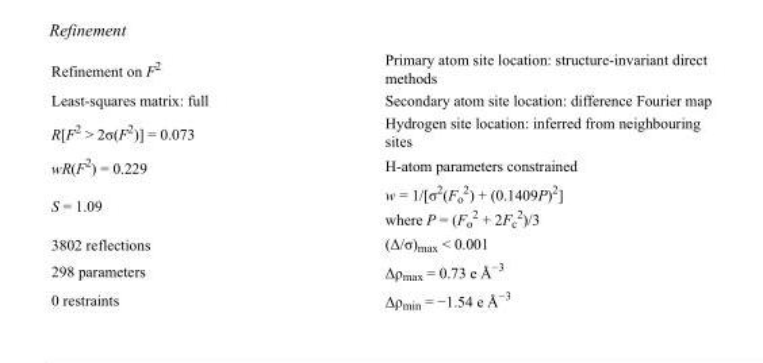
<table><tbody><tr><td>Refinement on F<sup>2</sup></td><td>Primary atom site location: structure-invariant direct methods</td></tr><tr><td>Least-squares matrix: full</td><td>Secondary atom site location: difference Fourier map</td></tr><tr><td>R[F<sup>2</sup> &gt; 2σ(F<sup>2</sup>)] = 0.073</td><td>Hydrogen site location: inferred from neighbouring sites</td></tr><tr><td>wR(F<sup>2</sup>) = 0.229</td><td>H-atom parameters constrained</td></tr><tr><td>S = 1.09</td><td>w = 1/[σ<sup>2</sup>(F<sub>o</sub> <sup>2</sup>) + (0.1409P)<sup>2</sup>] where P = (F<sub>o</sub> <sup>2</sup> + 2F<sub>c</sub> <sup>2</sup>)/3</td></tr><tr><td>3802 reflections</td><td>(Δ/σ)<sub>max</sub> &lt; 0.001</td></tr><tr><td>298 parameters</td><td>Δρ<sub>max</sub> = 0.73 e Å<sup>−3</sup></td></tr><tr><td>0 restraints</td><td>Δρ<sub>min</sub> = −1.54 e Å<sup>−3</sup></td></tr></tbody></table>